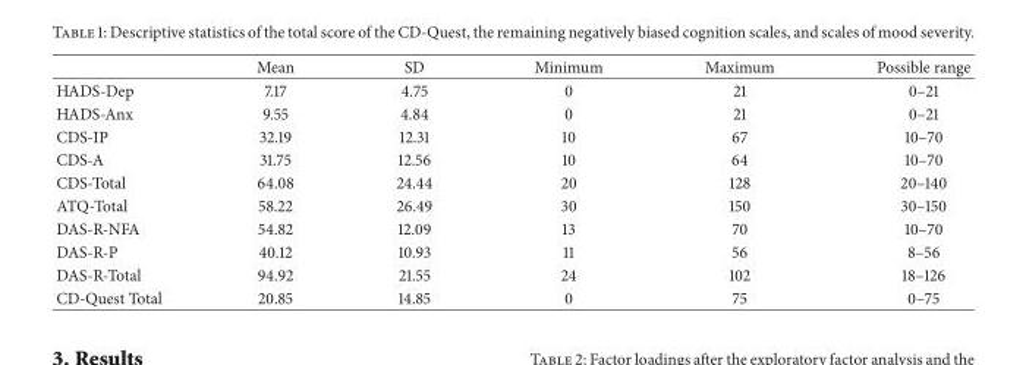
<table><thead><tr><td></td><td>Mean</td><td>SD</td><td>Minimum</td><td>Maximum</td><td>Possible range</td></tr></thead><tbody><tr><td>HADS-Dep</td><td>7.17</td><td>4.75</td><td>0</td><td>21</td><td>0–21</td></tr><tr><td>HADS-Anx</td><td>9.55</td><td>4.84</td><td>0</td><td>21</td><td>0–21</td></tr><tr><td>CDS-IP</td><td>32.19</td><td>12.31</td><td>10</td><td>67</td><td>10–70</td></tr><tr><td>CDS-A</td><td>31.75</td><td>12.56</td><td>10</td><td>64</td><td>10–70</td></tr><tr><td>CDS-Total</td><td>64.08</td><td>24.44</td><td>20</td><td>128</td><td>20–140</td></tr><tr><td>ATQ-Total</td><td>58.22</td><td>26.49</td><td>30</td><td>150</td><td>30–150</td></tr><tr><td>DAS-R-NFA</td><td>54.82</td><td>12.09</td><td>13</td><td>70</td><td>10–70</td></tr><tr><td>DAS-R-P</td><td>40.12</td><td>10.93</td><td>11</td><td>56</td><td>8–56</td></tr><tr><td>DAS-R-Total</td><td>94.92</td><td>21.55</td><td>24</td><td>102</td><td>18–126</td></tr><tr><td>CD-Quest Total</td><td>20.85</td><td>14.85</td><td>0</td><td>75</td><td>0–75</td></tr></tbody></table>